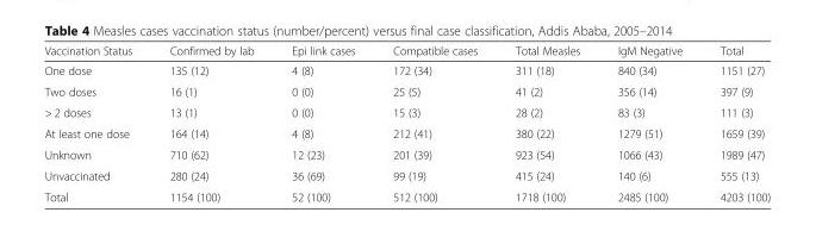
<table><thead><tr><td>Vaccination Status</td><td>Confirmed by lab</td><td>Epi link cases</td><td>Compatible cases</td><td>Total Measles</td><td>IgM Negative</td><td>Total</td></tr></thead><tbody><tr><td>One dose</td><td>135 (12)</td><td>4 (8)</td><td>172 (34)</td><td>311 (18)</td><td>840 (34)</td><td>1151 (27)</td></tr><tr><td>Two doses</td><td>16 (1)</td><td>0 (0)</td><td>25 (5)</td><td>41 (2)</td><td>356 (14)</td><td>397 (9)</td></tr><tr><td>&gt; 2 doses</td><td>13 (1)</td><td>0 (0)</td><td>15 (3)</td><td>28 (2)</td><td>83 (3)</td><td>111 (3)</td></tr><tr><td>At least one dose</td><td>164 (14)</td><td>4 (8)</td><td>212 (41)</td><td>380 (22)</td><td>1279 (51)</td><td>1659 (39)</td></tr><tr><td>Unknown</td><td>710 (62)</td><td>12 (23)</td><td>201 (39)</td><td>923 (54)</td><td>1066 (43)</td><td>1989 (47)</td></tr><tr><td>Unvaccinated</td><td>280 (24)</td><td>36 (69)</td><td>99 (19)</td><td>415 (24)</td><td>140 (6)</td><td>555 (13)</td></tr><tr><td>Total</td><td>1154 (100)</td><td>52 (100)</td><td>512 (100)</td><td>1718 (100)</td><td>2485 (100)</td><td>4203 (100)</td></tr></tbody></table>